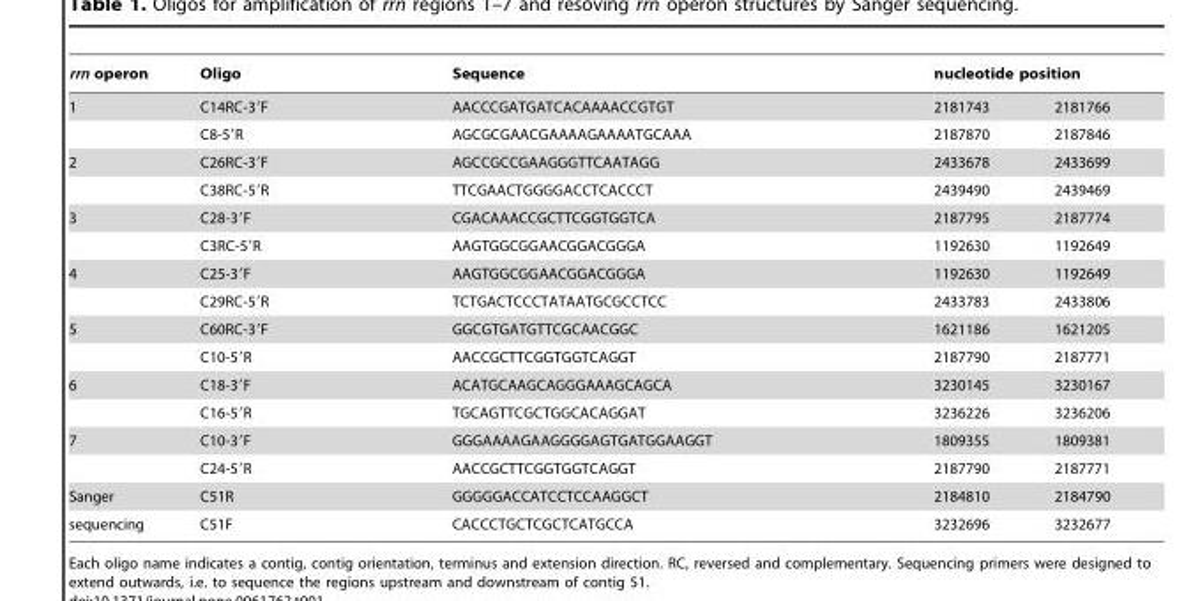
<table><thead><tr><td rowspan="2">rrn operon 1</td><td rowspan="2">Oligo C14RC-3′F</td><td rowspan="2">Sequence AACCCGATGATCACAAAACCGTGT</td><td colspan="2">nucleotide position</td></tr><tr><td>2181743</td><td>2181766</td></tr></thead><tbody><tr><td></td><td>C8-5′R</td><td>AGCGCGAACGAAAAGAAAATGCAAA</td><td>2187870</td><td>2187846</td></tr><tr><td rowspan="2">2</td><td>C26RC-3′F</td><td>AGCCGCCGAAGGGTTCAATAGG</td><td>2433678</td><td>2433699</td></tr><tr><td>C38RC-5′R</td><td>TTCGAACTGGGGACCTCACCCT</td><td>2439490</td><td>2439469</td></tr><tr><td rowspan="2">3</td><td>C28-3′F</td><td>CGACAAACCGCTTCGGTGGTCA</td><td>2187795</td><td>2187774</td></tr><tr><td>C3RC-5′R</td><td>AAGTGGCGGAACGGACGGGA</td><td>1192630</td><td>1192649</td></tr><tr><td rowspan="2">4</td><td>C25-3′F</td><td>AAGTGGCGGAACGGACGGGA</td><td>1192630</td><td>1192649</td></tr><tr><td>C29RC-5′R</td><td>TCTGACTCCCTATAATGCGCCTCC</td><td>2433783</td><td>2433806</td></tr><tr><td rowspan="2">5</td><td>C60RC-3′F</td><td>GGCGTGATGTTCGCAACGGC</td><td>1621186</td><td>1621205</td></tr><tr><td>C10-5′R</td><td>AACCGCTTCGGTGGTCAGGT</td><td>2187790</td><td>2187771</td></tr><tr><td rowspan="2">6</td><td>C18-3′F</td><td>ACATGCAAGCAGGGAAAGCAGCA</td><td>3230145</td><td>3230167</td></tr><tr><td>C16-5′R</td><td>TGCAGTTCGCTGGCACAGGAT</td><td>3236226</td><td>3236206</td></tr><tr><td rowspan="2">7</td><td>C10-3′F</td><td>GGGAAAAGAAGGGGAGTGATGGAAGGT</td><td>1809355</td><td>1809381</td></tr><tr><td>C24-5′R</td><td>AACCGCTTCGGTGGTCAGGT</td><td>2187790</td><td>2187771</td></tr><tr><td>Sanger</td><td>C51R</td><td>GGGGGACCATCCTCCAAGGCT</td><td>2184810</td><td>2184790</td></tr><tr><td>sequencing</td><td>C51F</td><td>CACCCTGCTCGCTCATGCCA</td><td>3232696</td><td>3232677</td></tr></tbody></table>